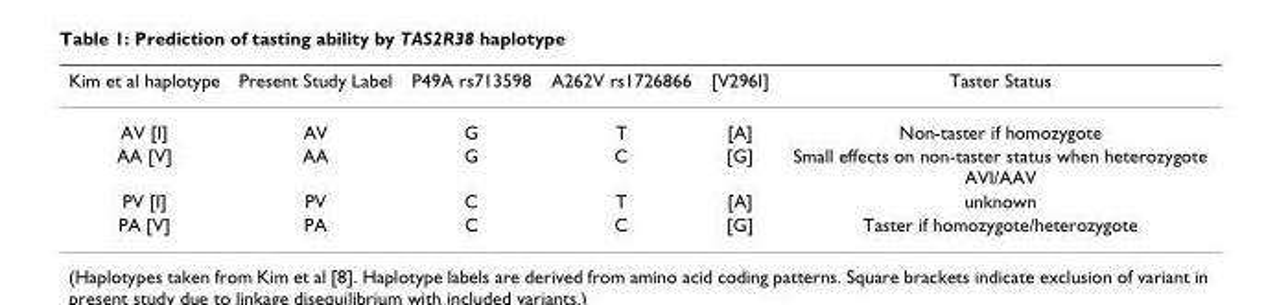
<table><thead><tr><td>Kim et al haplotype</td><td>Present Study Label</td><td>P49A rs713598</td><td>A262V rs1726866</td><td>[V296I]</td><td>Taster Status</td></tr></thead><tbody><tr><td>AV [I]</td><td>AV</td><td>G</td><td>T</td><td>[A]</td><td>Non-taster if homozygote</td></tr><tr><td>AA [V]</td><td>AA</td><td>G</td><td>C</td><td>[G]</td><td>Small effects on non-taster status when heterozygote AVI/AAV</td></tr><tr><td>PV [I]</td><td>PV</td><td>C</td><td>T</td><td>[A]</td><td>unknown</td></tr><tr><td>PA [V]</td><td>PA</td><td>C</td><td>C</td><td>[G]</td><td>Taster if homozygote/heterozygote</td></tr></tbody></table>